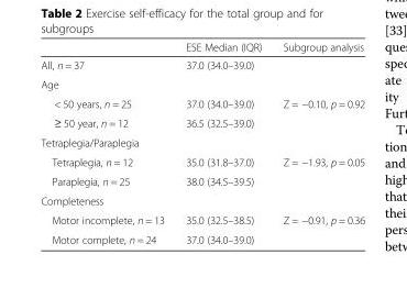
<table><thead><tr><td></td><td>ESE Median (IQR)</td><td>Subgroup analysis</td></tr></thead><tbody><tr><td>All, n = 37</td><td>37.0 (34.0–39.0)</td><td></td></tr><tr><td colspan="3">Age</td></tr><tr><td>&lt; 50 years, n = 25</td><td>37.0 (34.0–39.0)</td><td rowspan="2">Z = −0.10, p = 0.92</td></tr><tr><td>≥ 50 year, n = 12</td><td>36.5 (32.5–39.0)</td></tr><tr><td colspan="3">Tetraplegia/Paraplegia</td></tr><tr><td>Tetraplegia, n = 12</td><td>35.0 (31.8–37.0)</td><td rowspan="2">Z = −1.93, p = 0.05</td></tr><tr><td>Paraplegia, n = 25</td><td>38.0 (34.5–39.5)</td></tr><tr><td colspan="3">Completeness</td></tr><tr><td>Motor incomplete, n = 13</td><td>35.0 (32.5–38.5)</td><td rowspan="2">Z = −0.91, p = 0.36</td></tr><tr><td>Motor complete, n = 24</td><td>37.0 (34.0–39.0)</td></tr></tbody></table>